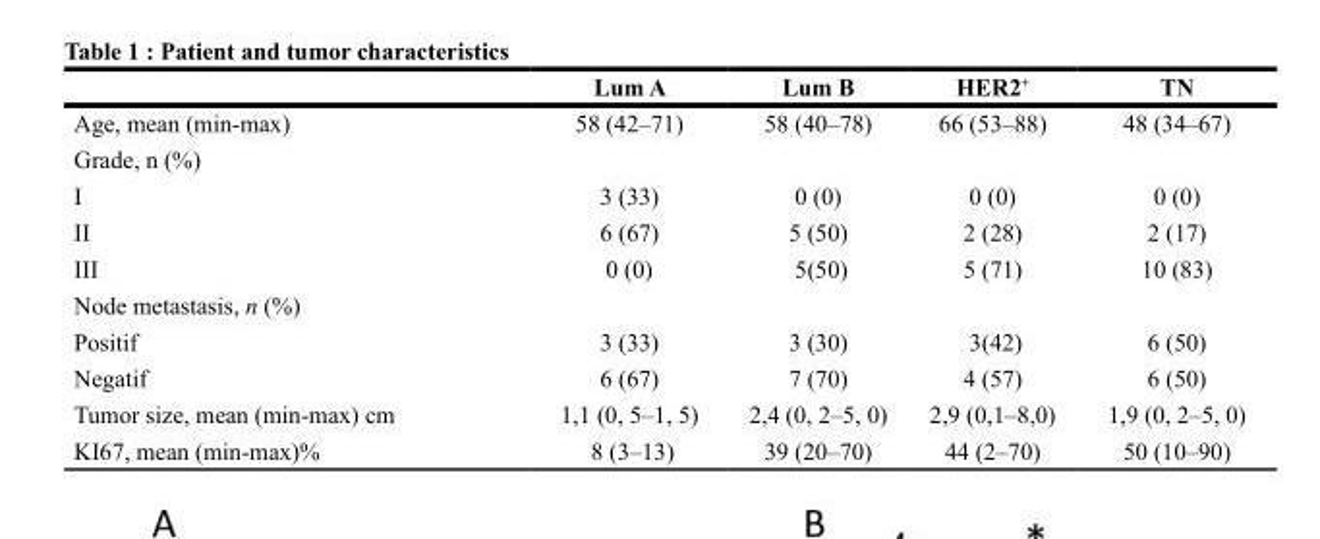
<table><thead><tr><td></td><td>Lum A</td><td>Lum B</td><td>HER2<sup>+</sup></td><td>TN</td></tr></thead><tbody><tr><td>Age, mean (min-max)</td><td>58 (42–71)</td><td>58 (40–78)</td><td>66 (53–88)</td><td>48 (34–67)</td></tr><tr><td colspan="5">Grade, n (%)</td></tr><tr><td>I</td><td>3 (33)</td><td>0 (0)</td><td>0 (0)</td><td>0 (0)</td></tr><tr><td>II</td><td>6 (67)</td><td>5 (50)</td><td>2 (28)</td><td>2 (17)</td></tr><tr><td>III</td><td>0 (0)</td><td>5(50)</td><td>5 (71)</td><td>10 (83)</td></tr><tr><td colspan="5">Node metastasis, n (%)</td></tr><tr><td>Positif</td><td>3 (33)</td><td>3 (30)</td><td>3(42)</td><td>6 (50)</td></tr><tr><td>Negatif</td><td>6 (67)</td><td>7 (70)</td><td>4 (57)</td><td>6 (50)</td></tr><tr><td>Tumor size, mean (min-max) cm</td><td>1,1 (0, 5–1, 5)</td><td>2,4 (0, 2–5, 0)</td><td>2,9 (0,1–8,0)</td><td>1,9 (0, 2–5, 0)</td></tr><tr><td>KI67, mean (min-max)%</td><td>8 (3–13)</td><td>39 (20–70)</td><td>44 (2–70)</td><td>50 (10–90)</td></tr></tbody></table>